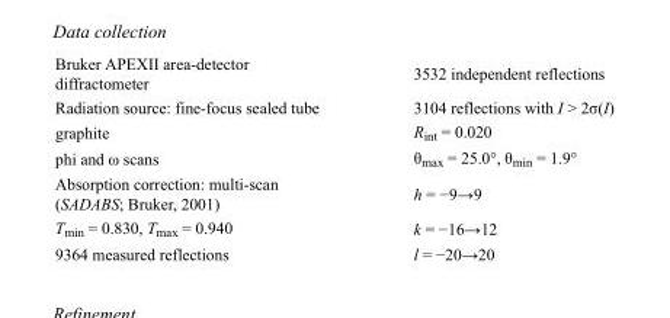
<table><tbody><tr><td>Bruker APEXII area-detector diffractometer</td><td>3532 independent reflections</td></tr><tr><td>Radiation source: fine-focus sealed tube</td><td>3104 reflections with I &gt; 2σ(I)</td></tr><tr><td>graphite</td><td>R<sub>int</sub> = 0.020</td></tr><tr><td>phi and ω scans</td><td>θ<sub>max</sub> = 25.0°, θ<sub>min</sub> = 1.9°</td></tr><tr><td>Absorption correction: multi-scan (SADABS; Bruker, 2001)</td><td>h = −9→9</td></tr><tr><td>T<sub>min</sub> = 0.830, T<sub>max</sub> = 0.940</td><td>k = −16→12</td></tr><tr><td>9364 measured reflections</td><td>l = −20→20</td></tr></tbody></table>